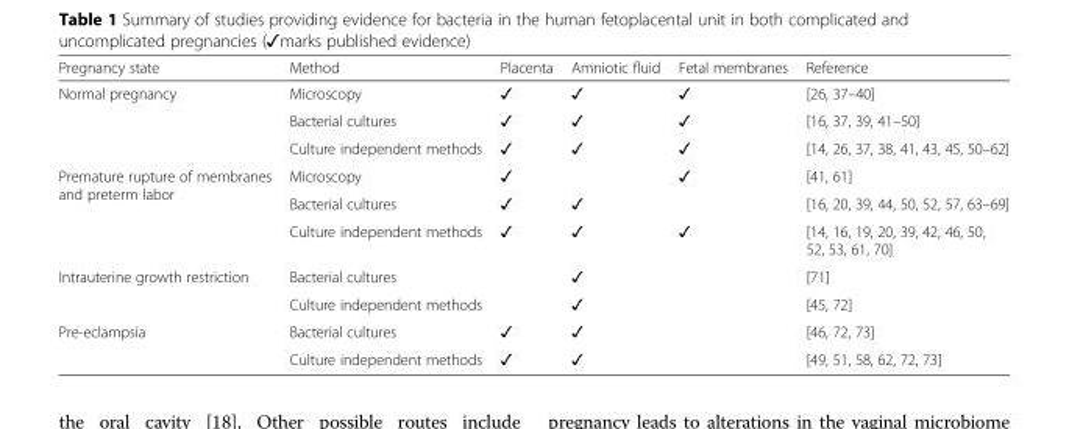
<table><thead><tr><td>Pregnancy state</td><td>Method</td><td>Placenta</td><td>Amniotic fluid</td><td>Fetal membranes</td><td>Reference</td></tr></thead><tbody><tr><td rowspan="3">Normal pregnancy</td><td>Microscopy</td><td>✓</td><td>✓</td><td>✓</td><td>[26, 37–40]</td></tr><tr><td>Bacterial cultures</td><td>✓</td><td>✓</td><td>✓</td><td>[16, 37, 39, 41–50]</td></tr><tr><td>Culture independent methods</td><td>✓</td><td>✓</td><td>✓</td><td>[14, 26, 37, 38, 41, 43, 45, 50–62]</td></tr><tr><td rowspan="3">Premature rupture of membranes and preterm labor</td><td>Microscopy</td><td>✓</td><td></td><td>✓</td><td>[41, 61]</td></tr><tr><td>Bacterial cultures</td><td>✓</td><td>✓</td><td></td><td>[16, 20, 39, 44, 50, 52, 57, 63–69]</td></tr><tr><td>Culture independent methods</td><td>✓</td><td>✓</td><td>✓</td><td>[14, 16, 19, 20, 39, 42, 46, 50, 52, 53, 61, 70]</td></tr><tr><td rowspan="2">Intrauterine growth restriction</td><td>Bacterial cultures</td><td></td><td>✓</td><td></td><td>[71]</td></tr><tr><td>Culture independent methods</td><td></td><td>✓</td><td></td><td>[45, 72]</td></tr><tr><td rowspan="2">Pre-eclampsia</td><td>Bacterial cultures</td><td>✓</td><td>✓</td><td></td><td>[46, 72, 73]</td></tr><tr><td>Culture independent methods</td><td>✓</td><td>✓</td><td></td><td>[49, 51, 58, 62, 72, 73]</td></tr></tbody></table>